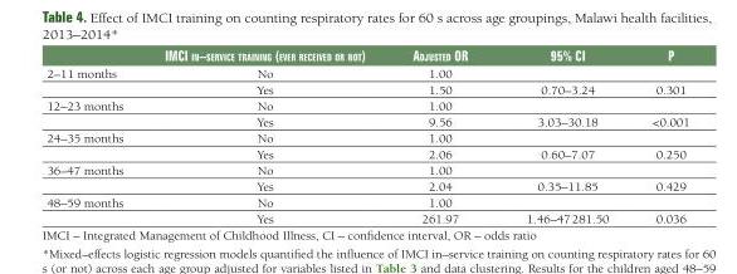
<table><thead><tr><td></td><td>imCi in–serviCe training (ever reCeived Or nOt)</td><td>adjusted Or</td><td>95% Ci</td><td>p</td></tr></thead><tbody><tr><td rowspan="2">2–11 months</td><td>No</td><td>1.00</td><td></td><td></td></tr><tr><td>Yes</td><td>1.50</td><td>0.70–3.24</td><td>0.301</td></tr><tr><td rowspan="2">12–23 months</td><td>No</td><td>1.00</td><td></td><td></td></tr><tr><td>Yes</td><td>9.56</td><td>3.03–30.18</td><td>&lt;0.001</td></tr><tr><td rowspan="2">24–35 months</td><td>No</td><td>1.00</td><td></td><td></td></tr><tr><td>Yes</td><td>2.06</td><td>0.60–7.07</td><td>0.250</td></tr><tr><td rowspan="2">36–47 months</td><td>No</td><td>1.00</td><td></td><td></td></tr><tr><td>Yes</td><td>2.04</td><td>0.35–11.85</td><td>0.429</td></tr><tr><td rowspan="2">48–59 months</td><td>No</td><td>1.00</td><td></td><td></td></tr><tr><td>Yes</td><td>261.97</td><td>1.46–47 281.50</td><td>0.036</td></tr></tbody></table>